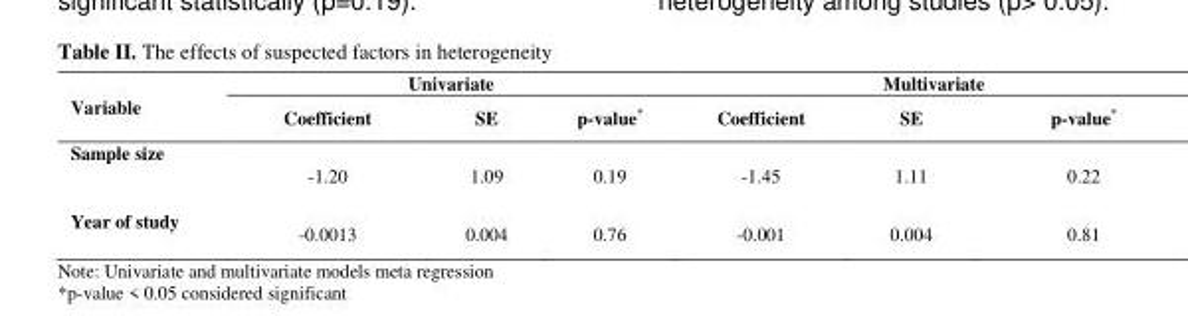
<table><thead><tr><td rowspan="2">Variable</td><td colspan="3">Univariate</td><td colspan="3">Multivariate</td></tr><tr><td>Coefficient</td><td>SE</td><td>p-value*</td><td>Coefficient</td><td>SE</td><td>p-value*</td></tr></thead><tbody><tr><td>Sample size</td><td>-1.20</td><td>1.09</td><td>0.19</td><td>-1.45</td><td>1.11</td><td>0.22</td></tr><tr><td>Year of study</td><td>-0.0013</td><td>0.004</td><td>0.76</td><td>-0.001</td><td>0.004</td><td>0.81</td></tr></tbody></table>